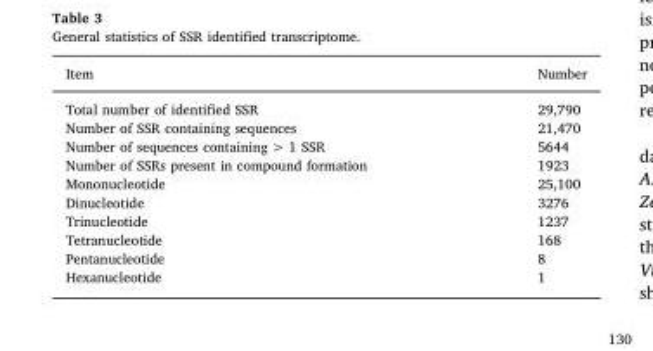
<table><thead><tr><td>Item</td><td>Number</td></tr></thead><tbody><tr><td>Total number of identified SSR</td><td>29,790</td></tr><tr><td>Number of SSR containing sequences</td><td>21,470</td></tr><tr><td>Number of sequences containing &gt; 1 SSR</td><td>5644</td></tr><tr><td>Number of SSRs present in compound formation</td><td>1923</td></tr><tr><td>Mononucleotide</td><td>25,100</td></tr><tr><td>Dinucleotide</td><td>3276</td></tr><tr><td>Trinucleotide</td><td>1237</td></tr><tr><td>Tetranucleotide</td><td>168</td></tr><tr><td>Pentanucleotide</td><td>8</td></tr><tr><td>Hexanucleotide</td><td>1</td></tr></tbody></table>